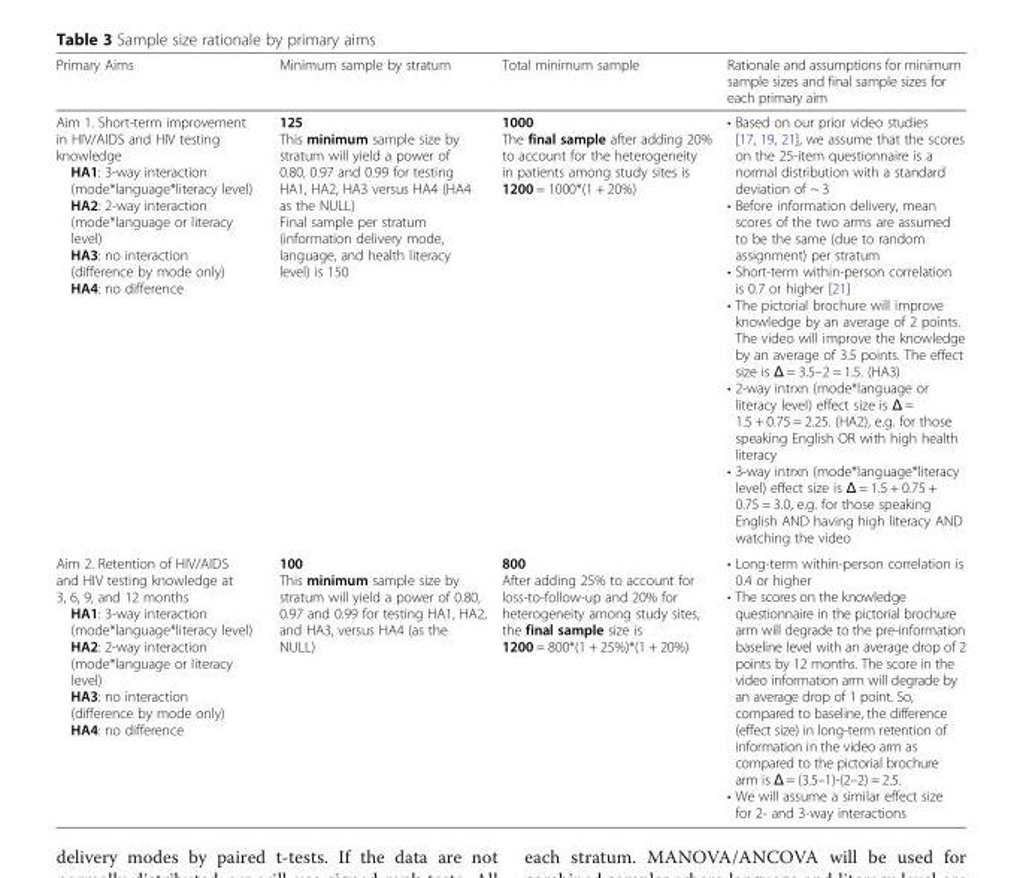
<table><thead><tr><td>Primary Aims</td><td>Minimum sample by stratum</td><td>Total minimum sample</td><td>Rationale and assumptions for minimum sample sizes and final sample sizes for each primary aim</td></tr></thead><tbody><tr><td>Aim 1. Short-term improvement in HIV/AIDS and HIV testing knowledge HA1: 3-way interaction (mode*language*literacy level) HA2: 2-way interaction (mode*language or literacy level) HA3: no interaction (difference by mode only) HA4: no difference</td><td>125 This minimum sample size by stratum will yield a power of 0.80, 0.97 and 0.99 for testing HA1, HA2, HA3 versus HA4 (HA4 as the NULL) Final sample per stratum (information delivery mode, language, and health literacy level) is 150</td><td>1000 The final sample after adding 20% to account for the heterogeneity in patients among study sites is 1200 = 1000*(1 + 20%)</td><td>• Based on our prior video studies [17, 19, 21], we assume that the scores on the 25-item questionnaire is a normal distribution with a standard deviation of ~ 3 • Before information delivery, mean scores of the two arms are assumed to be the same (due to random assignment) per stratum • Short-term within-person correlation is 0.7 or higher [21] • The pictorial brochure will improve knowledge by an average of 2 points. The video will improve the knowledge by an average of 3.5 points. The effect size is Δ = 3.5–2 = 1.5. (HA3) • 2-way intrxn (mode*language or literacy level) effect size is Δ = 1.5 + 0.75 = 2.25. (HA2), e.g. for those speaking English OR with high health literacy • 3-way intrxn (mode*language*literacy level) effect size is Δ = 1.5 + 0.75 + 0.75 = 3.0, e.g. for those speaking English AND having high literacy AND watching the video</td></tr><tr><td>Aim 2. Retention of HIV/AIDS and HIV testing knowledge at 3, 6, 9, and 12 months HA1: 3-way interaction (mode*language*literacy level) HA2: 2-way interaction (mode*language or literacy level) HA3: no interaction (difference by mode only) HA4: no difference</td><td>100 This minimum sample size by stratum will yield a power of 0.80, 0.97 and 0.99 for testing HA1, HA2, and HA3, versus HA4 (as the NULL)</td><td>800 After adding 25% to account for loss-to-follow-up and 20% for heterogeneity among study sites, the final sample size is 1200 = 800*(1 + 25%)*(1 + 20%)</td><td>• Long-term within-person correlation is 0.4 or higher • The scores on the knowledge questionnaire in the pictorial brochure arm will degrade to the pre-information baseline level with an average drop of 2 points by 12 months. The score in the video information arm will degrade by an average drop of 1 point. So, compared to baseline, the difference (effect size) in long-term retention of information in the video arm as compared to the pictorial brochure arm is Δ = (3.5–1)-(2–2) = 2.5. • We will assume a similar effect size for 2- and 3-way interactions</td></tr></tbody></table>